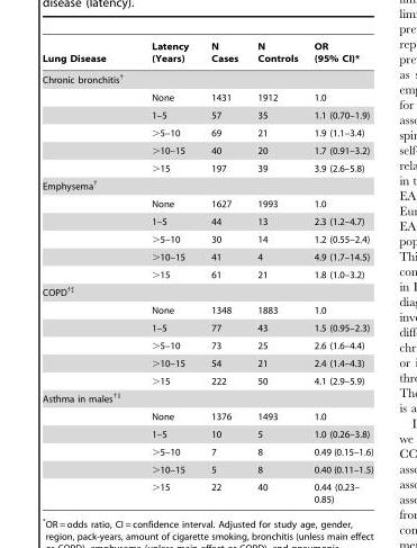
<table><thead><tr><td>Lung Disease</td><td>Latency (Years)</td><td>N Cases</td><td>N Controls</td><td>OR (95% CI)*</td></tr></thead><tbody><tr><td colspan="5">Chronic bronchitis†</td></tr><tr><td></td><td>None</td><td>1431</td><td>1912</td><td>1.0</td></tr><tr><td></td><td>1–5</td><td>57</td><td>35</td><td>1.1 (0.70–1.9)</td></tr><tr><td></td><td>&gt;5–10</td><td>69</td><td>21</td><td>1.9 (1.1–3.4)</td></tr><tr><td></td><td>&gt;10–15</td><td>40</td><td>20</td><td>1.7 (0.91–3.2)</td></tr><tr><td></td><td>&gt;15</td><td>197</td><td>39</td><td>3.9 (2.6–5.8)</td></tr><tr><td colspan="5">Emphysema†</td></tr><tr><td></td><td>None</td><td>1627</td><td>1993</td><td>1.0</td></tr><tr><td></td><td>1–5</td><td>44</td><td>13</td><td>2.3 (1.2–4.7)</td></tr><tr><td></td><td>&gt;5–10</td><td>30</td><td>14</td><td>1.2 (0.55–2.4)</td></tr><tr><td></td><td>&gt;10–15</td><td>41</td><td>4</td><td>4.9 (1.7–14.5)</td></tr><tr><td></td><td>&gt;15</td><td>61</td><td>21</td><td>1.8 (1.0–3.2)</td></tr><tr><td colspan="5">COPD†‡</td></tr><tr><td></td><td>None</td><td>1348</td><td>1883</td><td>1.0</td></tr><tr><td></td><td>1–5</td><td>77</td><td>43</td><td>1.5 (0.95–2.3)</td></tr><tr><td></td><td>&gt;5–10</td><td>73</td><td>25</td><td>2.6 (1.6–4.4)</td></tr><tr><td></td><td>&gt;10–15</td><td>54</td><td>21</td><td>2.4 (1.4–4.3)</td></tr><tr><td></td><td>&gt;15</td><td>222</td><td>50</td><td>4.1 (2.9–5.9)</td></tr><tr><td colspan="5">Asthma in males†<sup>∥</sup></td></tr><tr><td></td><td>None</td><td>1376</td><td>1493</td><td>1.0</td></tr><tr><td></td><td>1–5</td><td>10</td><td>5</td><td>1.0 (0.26–3.8)</td></tr><tr><td></td><td>&gt;5–10</td><td>7</td><td>8</td><td>0.49 (0.15–1.6)</td></tr><tr><td></td><td>&gt;10–15</td><td>5</td><td>8</td><td>0.40 (0.11–1.5)</td></tr><tr><td></td><td>&gt;15</td><td>22</td><td>40</td><td>0.44 (0.23– 0.85)</td></tr></tbody></table>